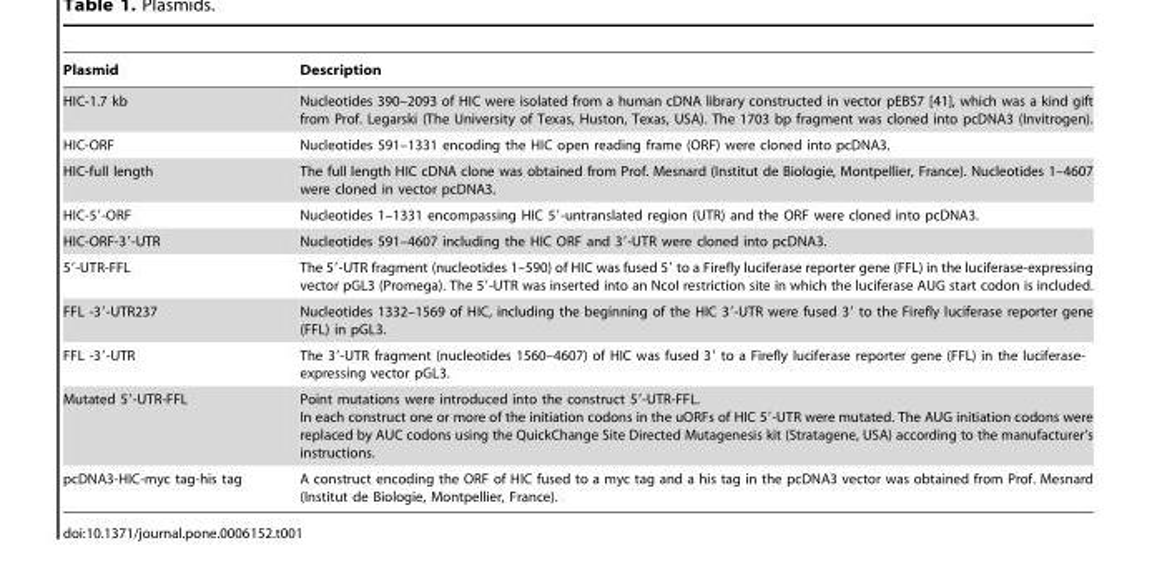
<table><thead><tr><td>Plasmid</td><td>Description</td></tr></thead><tbody><tr><td>HIC-1.7 kb</td><td>Nucleotides 390–2093 of HIC were isolated from a human cDNA library constructed in vector pEBS7 [41], which was a kind gift from Prof. Legarski (The University of Texas, Huston, Texas, USA). The 1703 bp fragment was cloned into pcDNA3 (Invitrogen).</td></tr><tr><td>HIC-ORF</td><td>Nucleotides 591–1331 encoding the HIC open reading frame (ORF) were cloned into pcDNA3.</td></tr><tr><td>HIC-full length</td><td>The full length HIC cDNA clone was obtained from Prof. Mesnard (Institut de Biologie, Montpellier, France). Nucleotides 1–4607 were cloned in vector pcDNA3.</td></tr><tr><td>HIC-5′-ORF</td><td>Nucleotides 1–1331 encompassing HIC 5′-untranslated region (UTR) and the ORF were cloned into pcDNA3.</td></tr><tr><td>HIC-ORF-3′-UTR</td><td>Nucleotides 591–4607 including the HIC ORF and 3′-UTR were cloned into pcDNA3.</td></tr><tr><td>5′-UTR-FFL</td><td>The 5′-UTR fragment (nucleotides 1–590) of HIC was fused 5′ to a Firefly luciferase reporter gene (FFL) in the luciferase-expressing vector pGL3 (Promega). The 5′-UTR was inserted into an NcoI restriction site in which the luciferase AUG start codon is included.</td></tr><tr><td>FFL -3′-UTR237</td><td>Nucleotides 1332–1569 of HIC, including the beginning of the HIC 3′-UTR were fused 3′ to the Firefly luciferase reporter gene (FFL) in pGL3.</td></tr><tr><td>FFL -3′-UTR</td><td>The 3′-UTR fragment (nucleotides 1560–4607) of HIC was fused 3′ to a Firefly luciferase reporter gene (FFL) in the luciferase- expressing vector pGL3.</td></tr><tr><td>Mutated 5′-UTR-FFL</td><td>Point mutations were introduced into the construct 5′-UTR-FFL. In each construct one or more of the initiation codons in the uORFs of HIC 5′-UTR were mutated. The AUG initiation codons were replaced by AUC codons using the QuickChange Site Directed Mutagenesis kit (Stratagene, USA) according to the manufacturer’s instructions.</td></tr><tr><td>pcDNA3-HIC-myc tag-his tag</td><td>A construct encoding the ORF of HIC fused to a myc tag and a his tag in the pcDNA3 vector was obtained from Prof. Mesnard (Institut de Biologie, Montpellier, France).</td></tr></tbody></table>